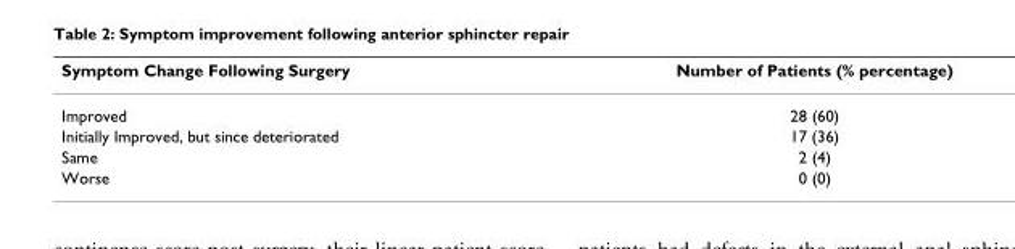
<table><thead><tr><td>Symptom Change Following Surgery</td><td>Number of Patients (% percentage)</td></tr></thead><tbody><tr><td>Improved</td><td>28 (60)</td></tr><tr><td>Initially Improved, but since deteriorated</td><td>17 (36)</td></tr><tr><td>Same</td><td>2 (4)</td></tr><tr><td>Worse</td><td>0 (0)</td></tr></tbody></table>